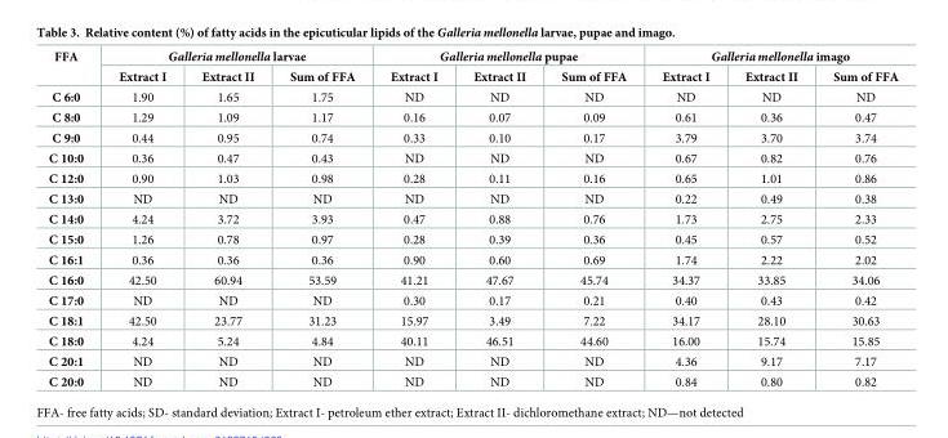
<table><thead><tr><td rowspan="2">FFA</td><td colspan="3">Galleria mellonella larvae</td><td colspan="3">Galleria mellonella pupae</td><td colspan="3">Galleria mellonella imago</td></tr><tr><td>Extract I</td><td>Extract II</td><td>Sum of FFA</td><td>Extract I</td><td>Extract II</td><td>Sum of FFA</td><td>Extract I</td><td>Extract II</td><td>Sum of FFA</td></tr></thead><tbody><tr><td>C 6:0</td><td>1.90</td><td>1.65</td><td>1.75</td><td>ND</td><td>ND</td><td>ND</td><td>ND</td><td>ND</td><td>ND</td></tr><tr><td>C 8:0</td><td>1.29</td><td>1.09</td><td>1.17</td><td>0.16</td><td>0.07</td><td>0.09</td><td>0.61</td><td>0.36</td><td>0.47</td></tr><tr><td>C 9:0</td><td>0.44</td><td>0.95</td><td>0.74</td><td>0.33</td><td>0.10</td><td>0.17</td><td>3.79</td><td>3.70</td><td>3.74</td></tr><tr><td>C 10:0</td><td>0.36</td><td>0.47</td><td>0.43</td><td>ND</td><td>ND</td><td>ND</td><td>0.67</td><td>0.82</td><td>0.76</td></tr><tr><td>C 12:0</td><td>0.90</td><td>1.03</td><td>0.98</td><td>0.28</td><td>0.11</td><td>0.16</td><td>0.65</td><td>1.01</td><td>0.86</td></tr><tr><td>C 13:0</td><td>ND</td><td>ND</td><td>ND</td><td>ND</td><td>ND</td><td>ND</td><td>0.22</td><td>0.49</td><td>0.38</td></tr><tr><td>C 14:0</td><td>4.24</td><td>3.72</td><td>3.93</td><td>0.47</td><td>0.88</td><td>0.76</td><td>1.73</td><td>2.75</td><td>2.33</td></tr><tr><td>C 15:0</td><td>1.26</td><td>0.78</td><td>0.97</td><td>0.28</td><td>0.39</td><td>0.36</td><td>0.45</td><td>0.57</td><td>0.52</td></tr><tr><td>C 16:1</td><td>0.36</td><td>0.36</td><td>0.36</td><td>0.90</td><td>0.60</td><td>0.69</td><td>1.74</td><td>2.22</td><td>2.02</td></tr><tr><td>C 16:0</td><td>42.50</td><td>60.94</td><td>53.59</td><td>41.21</td><td>47.67</td><td>45.74</td><td>34.37</td><td>33.85</td><td>34.06</td></tr><tr><td>C 17:0</td><td>ND</td><td>ND</td><td>ND</td><td>0.30</td><td>0.17</td><td>0.21</td><td>0.40</td><td>0.43</td><td>0.42</td></tr><tr><td>C 18:1</td><td>42.50</td><td>23.77</td><td>31.23</td><td>15.97</td><td>3.49</td><td>7.22</td><td>34.17</td><td>28.10</td><td>30.63</td></tr><tr><td>C 18:0</td><td>4.24</td><td>5.24</td><td>4.84</td><td>40.11</td><td>46.51</td><td>44.60</td><td>16.00</td><td>15.74</td><td>15.85</td></tr><tr><td>C 20:1</td><td>ND</td><td>ND</td><td>ND</td><td>ND</td><td>ND</td><td>ND</td><td>4.36</td><td>9.17</td><td>7.17</td></tr><tr><td>C 20:0</td><td>ND</td><td>ND</td><td>ND</td><td>ND</td><td>ND</td><td>ND</td><td>0.84</td><td>0.80</td><td>0.82</td></tr></tbody></table>